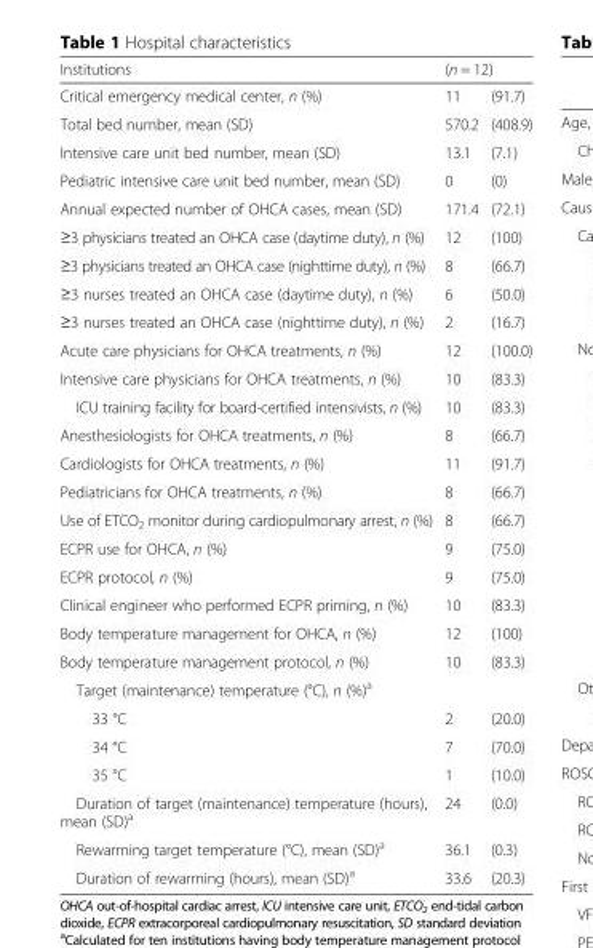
<table><thead><tr><td rowspan="2">Institutions Critical emergency medical center, n (%)</td><td colspan="2">(n = 12)</td></tr><tr><td>11</td><td>(91.7)</td></tr></thead><tbody><tr><td>Total bed number, mean (SD)</td><td>570.2</td><td>(408.9)</td></tr><tr><td>Intensive care unit bed number, mean (SD)</td><td>13.1</td><td>(7.1)</td></tr><tr><td>Pediatric intensive care unit bed number, mean (SD)</td><td>0</td><td>(0)</td></tr><tr><td>Annual expected number of OHCA cases, mean (SD)</td><td>171.4</td><td>(72.1)</td></tr><tr><td>≥3 physicians treated an OHCA case (daytime duty), n (%)</td><td>12</td><td>(100)</td></tr><tr><td>≥3 physicians treated an OHCA case (nighttime duty), n (%)</td><td>8</td><td>(66.7)</td></tr><tr><td>≥3 nurses treated an OHCA case (daytime duty), n (%)</td><td>6</td><td>(50.0)</td></tr><tr><td>≥3 nurses treated an OHCA case (nighttime duty), n (%)</td><td>2</td><td>(16.7)</td></tr><tr><td>Acute care physicians for OHCA treatments, n (%)</td><td>12</td><td>(100.0)</td></tr><tr><td>Intensive care physicians for OHCA treatments, n (%)</td><td>10</td><td>(83.3)</td></tr><tr><td>ICU training facility for board-certified intensivists, n (%)</td><td>10</td><td>(83.3)</td></tr><tr><td>Anesthesiologists for OHCA treatments, n (%)</td><td>8</td><td>(66.7)</td></tr><tr><td>Cardiologists for OHCA treatments, n (%)</td><td>11</td><td>(91.7)</td></tr><tr><td>Pediatricians for OHCA treatments, n (%)</td><td>8</td><td>(66.7)</td></tr><tr><td>Use of ETCO<sub>2</sub> monitor during cardiopulmonary arrest, n (%)</td><td>8</td><td>(66.7)</td></tr><tr><td>ECPR use for OHCA, n (%)</td><td>9</td><td>(75.0)</td></tr><tr><td>ECPR protocol, n (%)</td><td>9</td><td>(75.0)</td></tr><tr><td>Clinical engineer who performed ECPR priming, n (%)</td><td>10</td><td>(83.3)</td></tr><tr><td>Body temperature management for OHCA, n (%)</td><td>12</td><td>(100)</td></tr><tr><td>Body temperature management protocol, n (%)</td><td>10</td><td>(83.3)</td></tr><tr><td colspan="3">Target (maintenance) temperature (°C), n (%)<sup>a</sup></td></tr><tr><td>33 °C</td><td>2</td><td>(20.0)</td></tr><tr><td>34 °C</td><td>7</td><td>(70.0)</td></tr><tr><td>35 °C</td><td>1</td><td>(10.0)</td></tr><tr><td>Duration of target (maintenance) temperature (hours), mean (SD)<sup>a</sup></td><td>24</td><td>(0.0)</td></tr><tr><td>Rewarming target temperature (°C), mean (SD)<sup>a</sup></td><td>36.1</td><td>(0.3)</td></tr><tr><td>Duration of rewarming (hours), mean (SD)<sup>a</sup></td><td>33.6</td><td>(20.3)</td></tr></tbody></table>